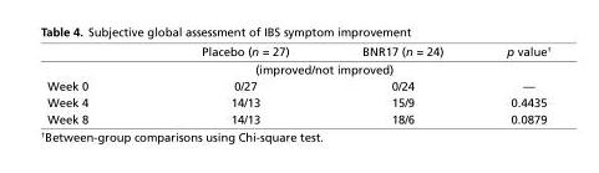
<table><thead><tr><td></td><td>Placebo (n = 27)</td><td>BNR17 (n = 24)</td><td>p value<sup>†</sup></td></tr></thead><tbody><tr><td></td><td colspan="2">(improved/not improved)</td><td></td></tr><tr><td>Week 0</td><td>0/27</td><td>0/24</td><td>—</td></tr><tr><td>Week 4</td><td>14/13</td><td>15/9</td><td>0.4435</td></tr><tr><td>Week 8</td><td>14/13</td><td>18/6</td><td>0.0879</td></tr></tbody></table>